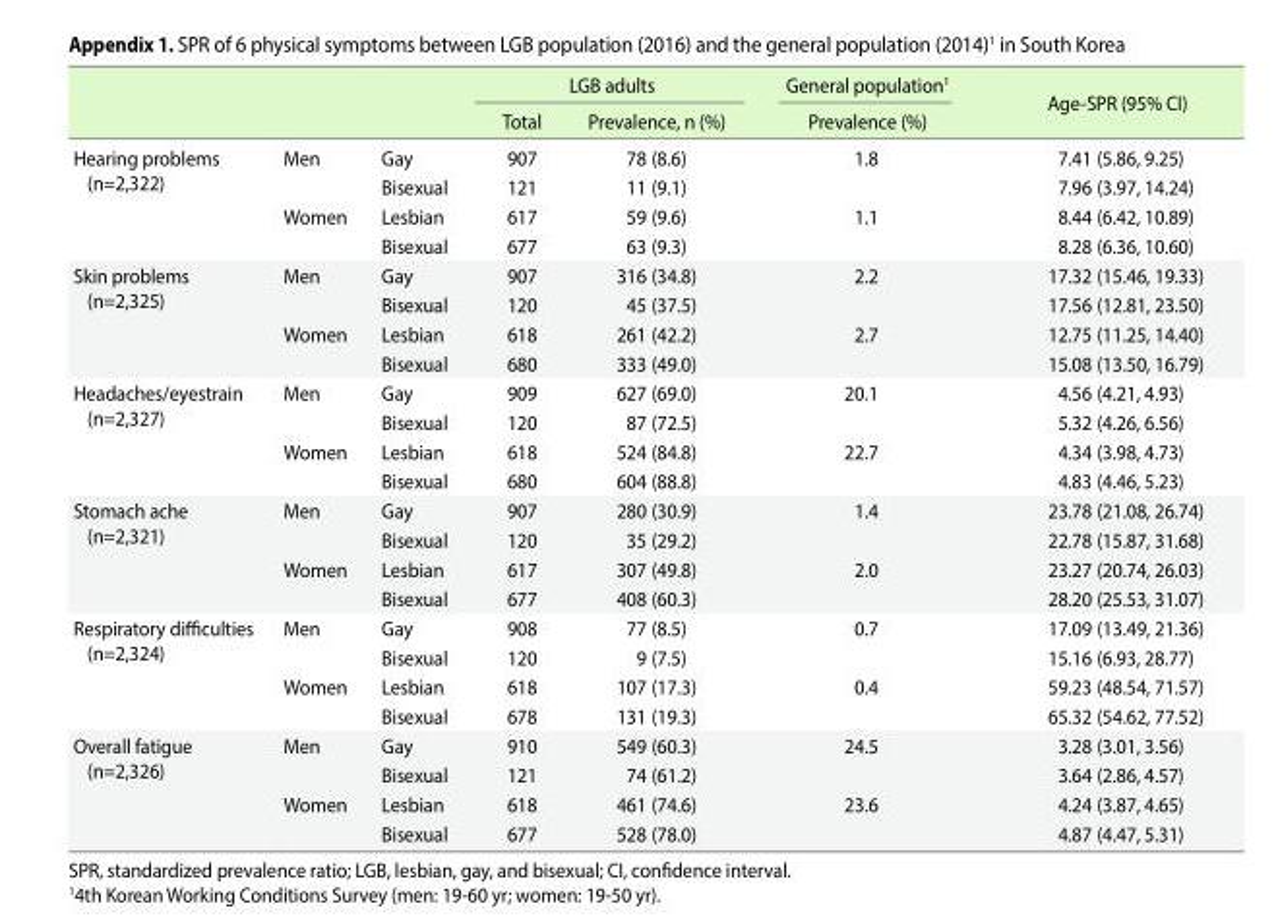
<table><thead><tr><td rowspan="2"></td><td rowspan="2"></td><td rowspan="2"></td><td colspan="2">LGB adults</td><td rowspan="2">General population<sup>1</sup> Prevalence (%)</td><td rowspan="2">Age-SPR (95% CI)</td></tr><tr><td>Total</td><td>Prevalence, n (%)</td></tr></thead><tbody><tr><td rowspan="4">Hearing problems (n=2,322)</td><td>Men</td><td>Gay</td><td>907</td><td>78 (8.6)</td><td>1.8</td><td>7.41 (5.86, 9.25)</td></tr><tr><td></td><td>Bisexual</td><td>121</td><td>11 (9.1)</td><td></td><td>7.96 (3.97, 14.24)</td></tr><tr><td>Women</td><td>Lesbian</td><td>617</td><td>59 (9.6)</td><td>1.1</td><td>8.44 (6.42, 10.89)</td></tr><tr><td></td><td>Bisexual</td><td>677</td><td>63 (9.3)</td><td></td><td>8.28 (6.36, 10.60)</td></tr><tr><td rowspan="4">Skin problems (n=2,325)</td><td>Men</td><td>Gay</td><td>907</td><td>316 (34.8)</td><td>2.2</td><td>17.32 (15.46, 19.33)</td></tr><tr><td></td><td>Bisexual</td><td>120</td><td>45 (37.5)</td><td></td><td>17.56 (12.81, 23.50)</td></tr><tr><td>Women</td><td>Lesbian</td><td>618</td><td>261 (42.2)</td><td>2.7</td><td>12.75 (11.25, 14.40)</td></tr><tr><td></td><td>Bisexual</td><td>680</td><td>333 (49.0)</td><td></td><td>15.08 (13.50, 16.79)</td></tr><tr><td rowspan="4">Headaches/eyestrain (n=2,327)</td><td>Men</td><td>Gay</td><td>909</td><td>627 (69.0)</td><td>20.1</td><td>4.56 (4.21, 4.93)</td></tr><tr><td></td><td>Bisexual</td><td>120</td><td>87 (72.5)</td><td></td><td>5.32 (4.26, 6.56)</td></tr><tr><td>Women</td><td>Lesbian</td><td>618</td><td>524 (84.8)</td><td>22.7</td><td>4.34 (3.98, 4.73)</td></tr><tr><td></td><td>Bisexual</td><td>680</td><td>604 (88.8)</td><td></td><td>4.83 (4.46, 5.23)</td></tr><tr><td rowspan="4">Stomach ache (n=2,321)</td><td>Men</td><td>Gay</td><td>907</td><td>280 (30.9)</td><td>1.4</td><td>23.78 (21.08, 26.74)</td></tr><tr><td></td><td>Bisexual</td><td>120</td><td>35 (29.2)</td><td></td><td>22.78 (15.87, 31.68)</td></tr><tr><td>Women</td><td>Lesbian</td><td>617</td><td>307 (49.8)</td><td>2.0</td><td>23.27 (20.74, 26.03)</td></tr><tr><td></td><td>Bisexual</td><td>677</td><td>408 (60.3)</td><td></td><td>28.20 (25.53, 31.07)</td></tr><tr><td rowspan="4">Respiratory difficulties (n=2,324)</td><td>Men</td><td>Gay</td><td>908</td><td>77 (8.5)</td><td>0.7</td><td>17.09 (13.49, 21.36)</td></tr><tr><td></td><td>Bisexual</td><td>120</td><td>9 (7.5)</td><td></td><td>15.16 (6.93, 28.77)</td></tr><tr><td>Women</td><td>Lesbian</td><td>618</td><td>107 (17.3)</td><td>0.4</td><td>59.23 (48.54, 71.57)</td></tr><tr><td></td><td>Bisexual</td><td>678</td><td>131 (19.3)</td><td></td><td>65.32 (54.62, 77.52)</td></tr><tr><td rowspan="4">Overall fatigue (n=2,326)</td><td>Men</td><td>Gay</td><td>910</td><td>549 (60.3)</td><td>24.5</td><td>3.28 (3.01, 3.56)</td></tr><tr><td></td><td>Bisexual</td><td>121</td><td>74 (61.2)</td><td></td><td>3.64 (2.86, 4.57)</td></tr><tr><td>Women</td><td>Lesbian</td><td>618</td><td>461 (74.6)</td><td>23.6</td><td>4.24 (3.87, 4.65)</td></tr><tr><td></td><td>Bisexual</td><td>677</td><td>528 (78.0)</td><td></td><td>4.87 (4.47, 5.31)</td></tr></tbody></table>